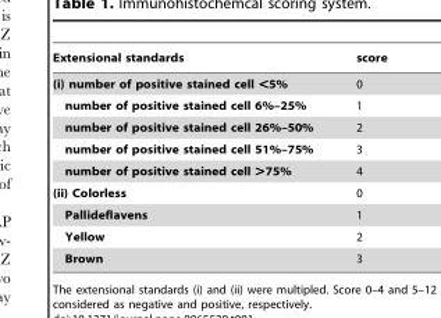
<table><thead><tr><td>Extensional standards</td><td>score</td></tr></thead><tbody><tr><td>(i) number of positive stained cell &lt;5%</td><td>0</td></tr><tr><td>number of positive stained cell 6%–25%</td><td>1</td></tr><tr><td>number of positive stained cell 26%–50%</td><td>2</td></tr><tr><td>number of positive stained cell 51%–75%</td><td>3</td></tr><tr><td>number of positive stained cell &gt;75%</td><td>4</td></tr><tr><td>(ii) Colorless</td><td>0</td></tr><tr><td>Pallideflavens</td><td>1</td></tr><tr><td>Yellow</td><td>2</td></tr><tr><td>Brown</td><td>3</td></tr></tbody></table>